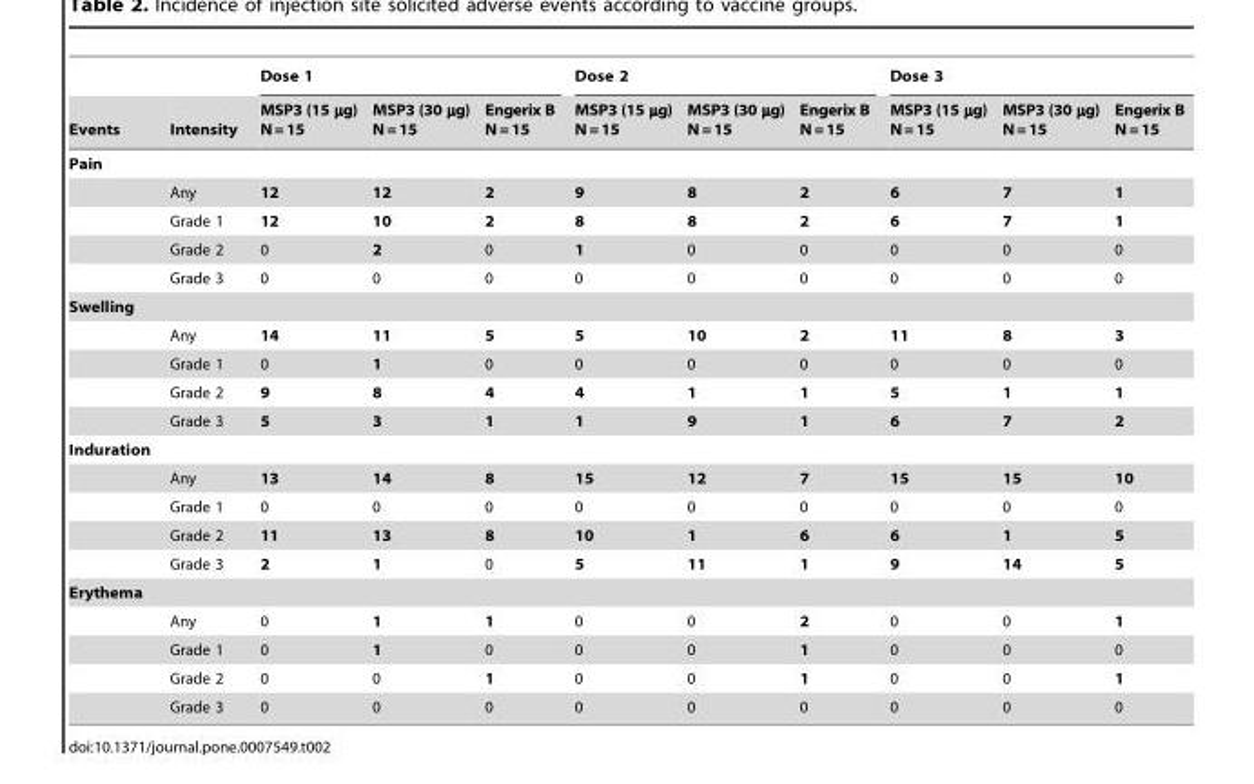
<table><thead><tr><td rowspan="2">Events</td><td rowspan="2">Intensity</td><td colspan="3">Dose 1</td><td colspan="3">Dose 2</td><td colspan="3">Dose 3</td></tr><tr><td>MSP3 (15 µg) N=15</td><td>MSP3 (30 µg) N=15</td><td>Engerix B N=15</td><td>MSP3 (15 µg) N=15</td><td>MSP3 (30 µg) N=15</td><td>Engerix B N=15</td><td>MSP3 (15 µg) N=15</td><td>MSP3 (30 µg) N=15</td><td>Engerix B N=15</td></tr></thead><tbody><tr><td colspan="11">Pain</td></tr><tr><td></td><td>Any</td><td>12</td><td>12</td><td>2</td><td>9</td><td>8</td><td>2</td><td>6</td><td>7</td><td>1</td></tr><tr><td></td><td>Grade 1</td><td>12</td><td>10</td><td>2</td><td>8</td><td>8</td><td>2</td><td>6</td><td>7</td><td>1</td></tr><tr><td></td><td>Grade 2</td><td>0</td><td>2</td><td>0</td><td>1</td><td>0</td><td>0</td><td>0</td><td>0</td><td>0</td></tr><tr><td></td><td>Grade 3</td><td>0</td><td>0</td><td>0</td><td>0</td><td>0</td><td>0</td><td>0</td><td>0</td><td>0</td></tr><tr><td colspan="11">Swelling</td></tr><tr><td></td><td>Any</td><td>14</td><td>11</td><td>5</td><td>5</td><td>10</td><td>2</td><td>11</td><td>8</td><td>3</td></tr><tr><td></td><td>Grade 1</td><td>0</td><td>1</td><td>0</td><td>0</td><td>0</td><td>0</td><td>0</td><td>0</td><td>0</td></tr><tr><td></td><td>Grade 2</td><td>9</td><td>8</td><td>4</td><td>4</td><td>1</td><td>1</td><td>5</td><td>1</td><td>1</td></tr><tr><td></td><td>Grade 3</td><td>5</td><td>3</td><td>1</td><td>1</td><td>9</td><td>1</td><td>6</td><td>7</td><td>2</td></tr><tr><td colspan="11">Induration</td></tr><tr><td></td><td>Any</td><td>13</td><td>14</td><td>8</td><td>15</td><td>12</td><td>7</td><td>15</td><td>15</td><td>10</td></tr><tr><td></td><td>Grade 1</td><td>0</td><td>0</td><td>0</td><td>0</td><td>0</td><td>0</td><td>0</td><td>0</td><td>0</td></tr><tr><td></td><td>Grade 2</td><td>11</td><td>13</td><td>8</td><td>10</td><td>1</td><td>6</td><td>6</td><td>1</td><td>5</td></tr><tr><td></td><td>Grade 3</td><td>2</td><td>1</td><td>0</td><td>5</td><td>11</td><td>1</td><td>9</td><td>14</td><td>5</td></tr><tr><td colspan="11">Erythema</td></tr><tr><td></td><td>Any</td><td>0</td><td>1</td><td>1</td><td>0</td><td>0</td><td>2</td><td>0</td><td>0</td><td>1</td></tr><tr><td></td><td>Grade 1</td><td>0</td><td>1</td><td>0</td><td>0</td><td>0</td><td>1</td><td>0</td><td>0</td><td>0</td></tr><tr><td></td><td>Grade 2</td><td>0</td><td>0</td><td>1</td><td>0</td><td>0</td><td>1</td><td>0</td><td>0</td><td>1</td></tr><tr><td></td><td>Grade 3</td><td>0</td><td>0</td><td>0</td><td>0</td><td>0</td><td>0</td><td>0</td><td>0</td><td>0</td></tr></tbody></table>